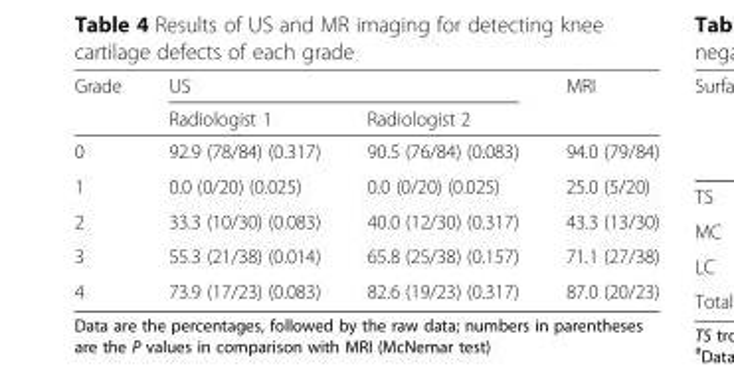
<table><thead><tr><td rowspan="2">Grade</td><td colspan="2">US</td><td rowspan="2">MRI</td></tr><tr><td>Radiologist 1</td><td>Radiologist 2</td></tr></thead><tbody><tr><td>0</td><td>92.9 (78/84) (0.317)</td><td>90.5 (76/84) (0.083)</td><td>94.0 (79/84)</td></tr><tr><td>1</td><td>0.0 (0/20) (0.025)</td><td>0.0 (0/20) (0.025)</td><td>25.0 (5/20)</td></tr><tr><td>2</td><td>33.3 (10/30) (0.083)</td><td>40.0 (12/30) (0.317)</td><td>43.3 (13/30)</td></tr><tr><td>3</td><td>55.3 (21/38) (0.014)</td><td>65.8 (25/38) (0.157)</td><td>71.1 (27/38)</td></tr><tr><td>4</td><td>73.9 (17/23) (0.083)</td><td>82.6 (19/23) (0.317)</td><td>87.0 (20/23)</td></tr></tbody></table>